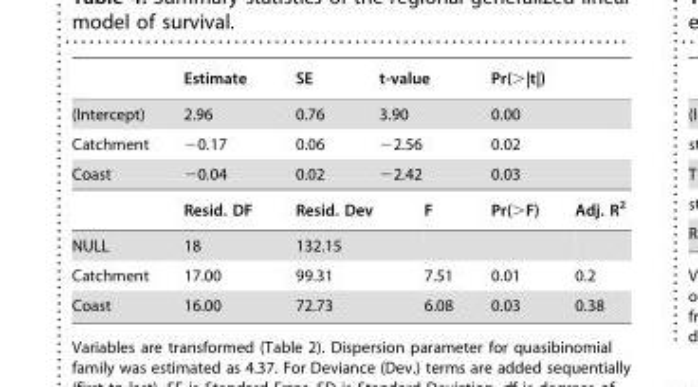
<table><thead><tr><td></td><td>Estimate</td><td>SE</td><td>t-value</td><td>Pr(&gt;|t|)</td><td></td></tr></thead><tbody><tr><td>(Intercept)</td><td>2.96</td><td>0.76</td><td>3.90</td><td>0.00</td><td></td></tr><tr><td>Catchment</td><td>−0.17</td><td>0.06</td><td>−2.56</td><td>0.02</td><td></td></tr><tr><td rowspan="2">Coast</td><td>−0.04</td><td>0.02</td><td>−2.42</td><td>0.03</td><td></td></tr><tr><td>Resid. DF</td><td>Resid. Dev</td><td>F</td><td>Pr(&gt;F)</td><td>Adj. R<sup>2</sup></td></tr><tr><td>NULL</td><td>18</td><td>132.15</td><td></td><td></td><td></td></tr><tr><td>Catchment</td><td>17.00</td><td>99.31</td><td>7.51</td><td>0.01</td><td>0.2</td></tr><tr><td>Coast</td><td>16.00</td><td>72.73</td><td>6.08</td><td>0.03</td><td>0.38</td></tr></tbody></table>